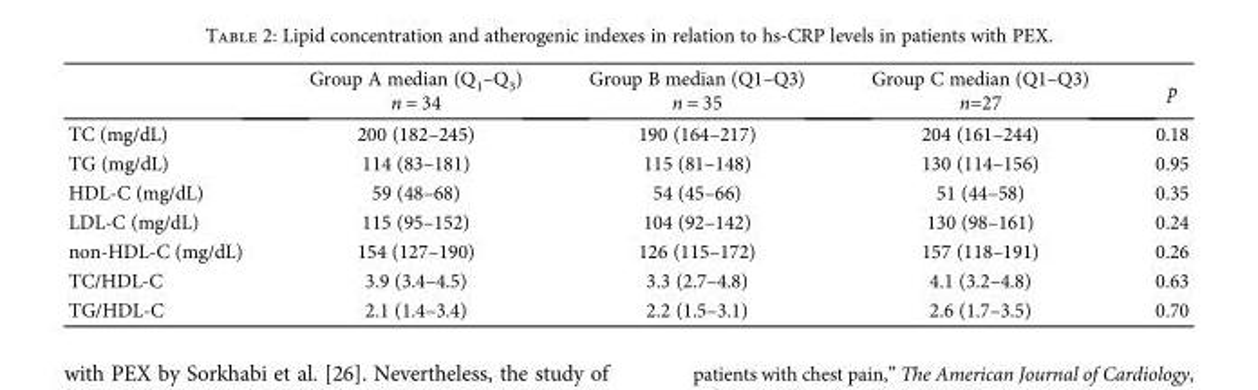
<table><thead><tr><td></td><td>Group A median (Q<sub>1</sub>–Q<sub>3</sub>) n = 34</td><td>Group B median (Q1–Q3) n = 35</td><td>Group C median (Q1–Q3) n=27</td><td>p</td></tr></thead><tbody><tr><td>TC (mg/dL)</td><td>200 (182–245)</td><td>190 (164–217)</td><td>204 (161–244)</td><td>0.18</td></tr><tr><td>TG (mg/dL)</td><td>114 (83–181)</td><td>115 (81–148)</td><td>130 (114–156)</td><td>0.95</td></tr><tr><td>HDL-C (mg/dL)</td><td>59 (48–68)</td><td>54 (45–66)</td><td>51 (44–58)</td><td>0.35</td></tr><tr><td>LDL-C (mg/dL)</td><td>115 (95–152)</td><td>104 (92–142)</td><td>130 (98–161)</td><td>0.24</td></tr><tr><td>non-HDL-C (mg/dL)</td><td>154 (127–190)</td><td>126 (115–172)</td><td>157 (118–191)</td><td>0.26</td></tr><tr><td>TC/HDL-C</td><td>3.9 (3.4–4.5)</td><td>3.3 (2.7–4.8)</td><td>4.1 (3.2–4.8)</td><td>0.63</td></tr><tr><td>TG/HDL-C</td><td>2.1 (1.4–3.4)</td><td>2.2 (1.5–3.1)</td><td>2.6 (1.7–3.5)</td><td>0.70</td></tr></tbody></table>